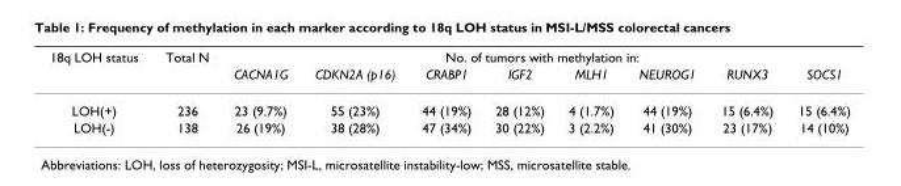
<table><thead><tr><td rowspan="2">18q LOH status</td><td rowspan="2">Total N</td><td colspan="8">No. of tumors with methylation in:</td></tr><tr><td>CACNA1G</td><td>CDKN2A (p16)</td><td>CRABP1</td><td>IGF2</td><td>MLH1</td><td>NEUROG1</td><td>RUNX3</td><td>SOCS1</td></tr></thead><tbody><tr><td>LOH(+)</td><td>236</td><td>23 (9.7%)</td><td>55 (23%)</td><td>44 (19%)</td><td>28 (12%)</td><td>4 (1.7%)</td><td>44 (19%)</td><td>15 (6.4%)</td><td>15 (6.4%)</td></tr><tr><td>LOH(-)</td><td>138</td><td>26 (19%)</td><td>38 (28%)</td><td>47 (34%)</td><td>30 (22%)</td><td>3 (2.2%)</td><td>41 (30%)</td><td>23 (17%)</td><td>14 (10%)</td></tr></tbody></table>